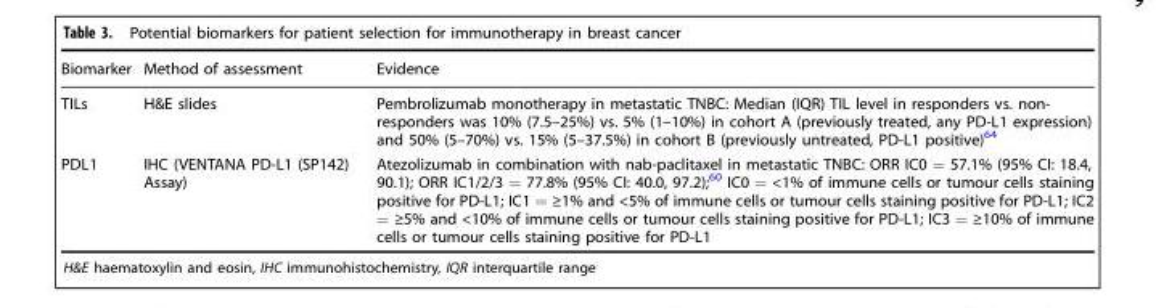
<table><thead><tr><td>Biomarker</td><td>Method of assessment</td><td>Evidence</td></tr></thead><tbody><tr><td>TILs</td><td>H&amp;E slides</td><td>Pembrolizumab monotherapy in metastatic TNBC: Median (IQR) TIL level in responders vs. non- responders was 10% (7.5–25%) vs. 5% (1–10%) in cohort A (previously treated, any PD-L1 expression) and 50% (5–70%) vs. 15% (5–37.5%) in cohort B (previously untreated, PD-L1 positive)<sup>64</sup></td></tr><tr><td>PDL1</td><td>IHC (VENTANA PD-L1 (SP142) Assay)</td><td>Atezolizumab in combination with nab-paclitaxel in metastatic TNBC: ORR IC0 = 57.1% (95% CI: 18.4, 90.1); ORR IC1/2/3 = 77.8% (95% CI: 40.0, 97.2);<sup>60</sup> IC0 = &lt;1% of immune cells or tumour cells staining positive for PD-L1; IC1 = ≥1% and &lt;5% of immune cells or tumour cells staining positive for PD-L1; IC2 = ≥5% and &lt;10% of immune cells or tumour cells staining positive for PD-L1; IC3 = ≥10% of immune cells or tumour cells staining positive for PD-L1</td></tr></tbody></table>